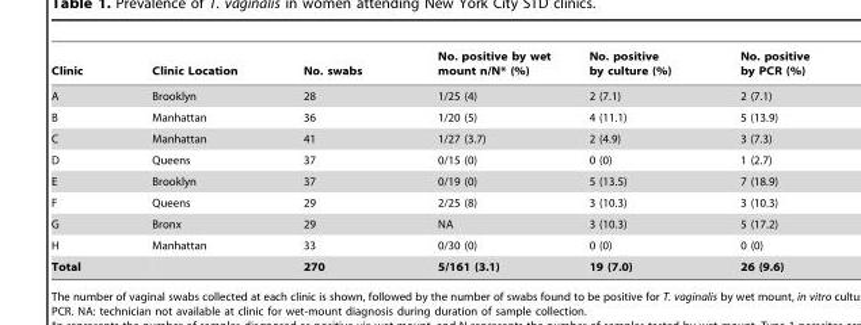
<table><thead><tr><td>Clinic</td><td>Clinic Location</td><td>No. swabs</td><td>No. positive by wet mount n/N* (%)</td><td>No. positive by culture (%)</td><td>No. positive by PCR (%)</td></tr></thead><tbody><tr><td>A</td><td>Brooklyn</td><td>28</td><td>1/25 (4)</td><td>2 (7.1)</td><td>2 (7.1)</td></tr><tr><td>B</td><td>Manhattan</td><td>36</td><td>1/20 (5)</td><td>4 (11.1)</td><td>5 (13.9)</td></tr><tr><td>C</td><td>Manhattan</td><td>41</td><td>1/27 (3.7)</td><td>2 (4.9)</td><td>3 (7.3)</td></tr><tr><td>D</td><td>Queens</td><td>37</td><td>0/15 (0)</td><td>0 (0)</td><td>1 (2.7)</td></tr><tr><td>E</td><td>Brooklyn</td><td>37</td><td>0/19 (0)</td><td>5 (13.5)</td><td>7 (18.9)</td></tr><tr><td>F</td><td>Queens</td><td>29</td><td>2/25 (8)</td><td>3 (10.3)</td><td>3 (10.3)</td></tr><tr><td>G</td><td>Bronx</td><td>29</td><td>NA</td><td>3 (10.3)</td><td>5 (17.2)</td></tr><tr><td>H</td><td>Manhattan</td><td>33</td><td>0/30 (0)</td><td>0 (0)</td><td>0 (0)</td></tr><tr><td>Total</td><td></td><td>270</td><td>5/161 (3.1)</td><td>19 (7.0)</td><td>26 (9.6)</td></tr></tbody></table>